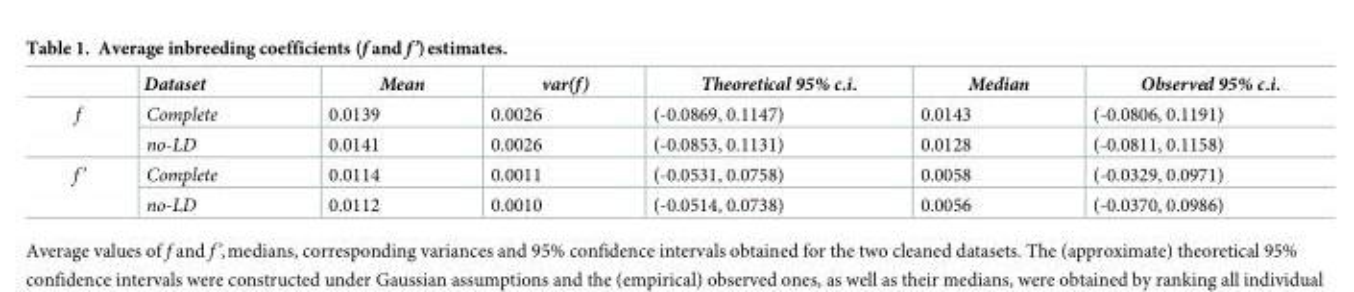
<table><thead><tr><td></td><td>Dataset</td><td>Mean</td><td>var(f)</td><td>Theoretical 95% c.i.</td><td>Median</td><td>Observed 95% c.i.</td></tr></thead><tbody><tr><td rowspan="2">f</td><td>Complete</td><td>0.0139</td><td>0.0026</td><td>(-0.0869, 0.1147)</td><td>0.0143</td><td>(-0.0806, 0.1191)</td></tr><tr><td>no-LD</td><td>0.0141</td><td>0.0026</td><td>(-0.0853, 0.1131)</td><td>0.0128</td><td>(-0.0811, 0.1158)</td></tr><tr><td rowspan="2">f’</td><td>Complete</td><td>0.0114</td><td>0.0011</td><td>(-0.0531, 0.0758)</td><td>0.0058</td><td>(-0.0329, 0.0971)</td></tr><tr><td>no-LD</td><td>0.0112</td><td>0.0010</td><td>(-0.0514, 0.0738)</td><td>0.0056</td><td>(-0.0370, 0.0986)</td></tr></tbody></table>